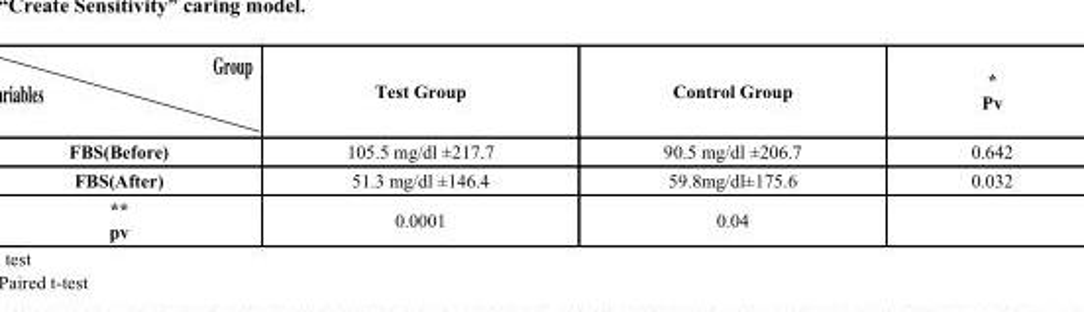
<table><thead><tr><td></td><td>Test Group</td><td>Control Group</td><td>* Pv</td></tr></thead><tbody><tr><td>FBS(Before)</td><td>105.5 mg/dl ±217.7</td><td>90.5 mg/dl ±206.7</td><td>0.642</td></tr><tr><td>FBS(After)</td><td>51.3 mg/dl ±146.4</td><td>59.8mg/dl±175.6</td><td>0.032</td></tr><tr><td>** pv</td><td>0.0001</td><td>0.04</td><td></td></tr></tbody></table>